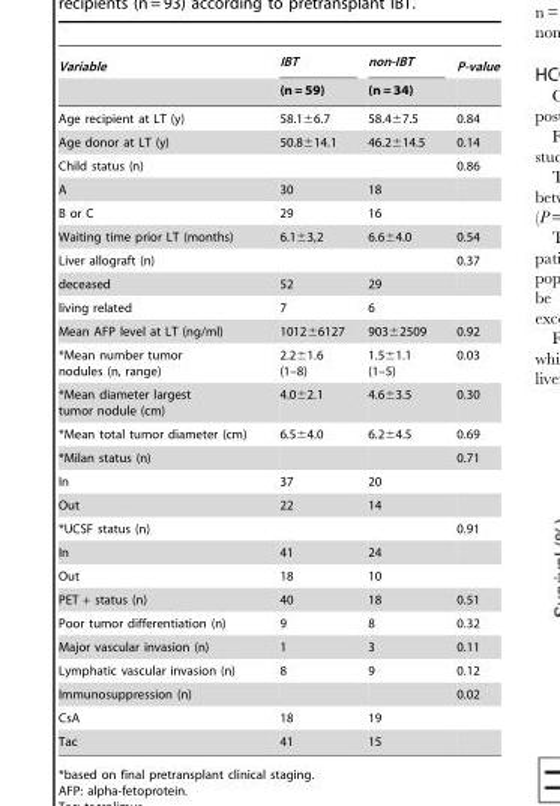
<table><thead><tr><td rowspan="2">Variable</td><td rowspan="2">IBT (n = 59)</td><td rowspan="2">non-IBT (n = 34)</td><td rowspan="2">P-value</td></tr><tr></tr></thead><tbody><tr><td>Age recipient at LT (y)</td><td>58.1±6.7</td><td>58.4±7.5</td><td>0.84</td></tr><tr><td>Age donor at LT (y)</td><td>50.8±14.1</td><td>46.2±14.5</td><td>0.14</td></tr><tr><td>Child status (n)</td><td></td><td></td><td>0.86</td></tr><tr><td>A</td><td>30</td><td>18</td><td></td></tr><tr><td>B or C</td><td>29</td><td>16</td><td></td></tr><tr><td>Waiting time prior LT (months)</td><td>6.1±3,2</td><td>6.6±4.0</td><td>0.54</td></tr><tr><td>Liver allograft (n)</td><td></td><td></td><td>0.37</td></tr><tr><td>deceased</td><td>52</td><td>29</td><td></td></tr><tr><td>living related</td><td>7</td><td>6</td><td></td></tr><tr><td>Mean AFP level at LT (ng/ml)</td><td>1012±6127</td><td>903±2509</td><td>0.92</td></tr><tr><td>*Mean number tumor nodules (n, range)</td><td>2.2±1.6 (1–8)</td><td>1.5±1.1 (1–5)</td><td>0.03</td></tr><tr><td>*Mean diameter largest tumor nodule (cm)</td><td>4.0±2.1</td><td>4.6±3.5</td><td>0.30</td></tr><tr><td>*Mean total tumor diameter (cm)</td><td>6.5±4.0</td><td>6.2±4.5</td><td>0.69</td></tr><tr><td>*Milan status (n)</td><td></td><td></td><td>0.71</td></tr><tr><td>In</td><td>37</td><td>20</td><td></td></tr><tr><td>Out</td><td>22</td><td>14</td><td></td></tr><tr><td>*UCSF status (n)</td><td></td><td></td><td>0.91</td></tr><tr><td>In</td><td>41</td><td>24</td><td></td></tr><tr><td>Out</td><td>18</td><td>10</td><td></td></tr><tr><td>PET + status (n)</td><td>40</td><td>18</td><td>0.51</td></tr><tr><td>Poor tumor differentiation (n)</td><td>9</td><td>8</td><td>0.32</td></tr><tr><td>Major vascular invasion (n)</td><td>1</td><td>3</td><td>0.11</td></tr><tr><td>Lymphatic vascular invasion (n)</td><td>8</td><td>9</td><td>0.12</td></tr><tr><td>Immunosuppression (n)</td><td></td><td></td><td>0.02</td></tr><tr><td>CsA</td><td>18</td><td>19</td><td></td></tr><tr><td>Tac</td><td>41</td><td>15</td><td></td></tr></tbody></table>